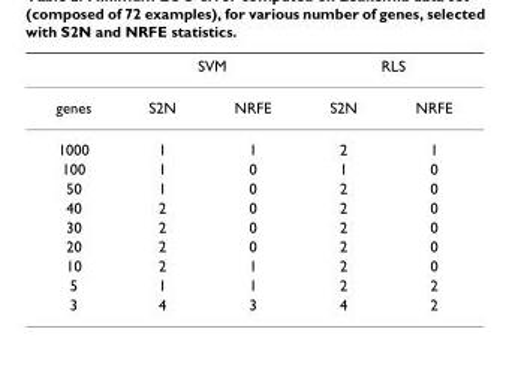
<table><thead><tr><td rowspan="2">genes</td><td colspan="2">SVM</td><td colspan="2">RLS</td></tr><tr><td>S2N</td><td>NRFE</td><td>S2N</td><td>NRFE</td></tr></thead><tbody><tr><td>1000</td><td>1</td><td>1</td><td>2</td><td>1</td></tr><tr><td>100</td><td>1</td><td>0</td><td>1</td><td>0</td></tr><tr><td>50</td><td>1</td><td>0</td><td>2</td><td>0</td></tr><tr><td>40</td><td>2</td><td>0</td><td>2</td><td>0</td></tr><tr><td>30</td><td>2</td><td>0</td><td>2</td><td>0</td></tr><tr><td>20</td><td>2</td><td>0</td><td>2</td><td>0</td></tr><tr><td>10</td><td>2</td><td>1</td><td>2</td><td>0</td></tr><tr><td>5</td><td>1</td><td>1</td><td>2</td><td>2</td></tr><tr><td>3</td><td>4</td><td>3</td><td>4</td><td>2</td></tr></tbody></table>